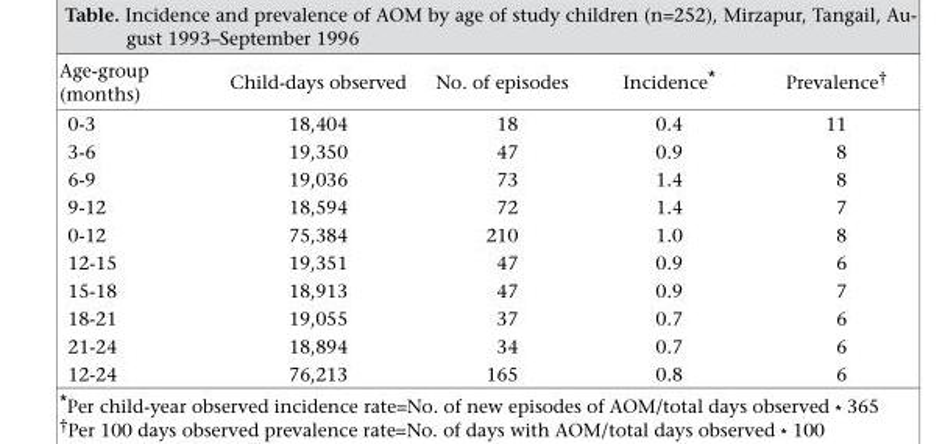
<table><thead><tr><td>Age-group (months)</td><td>Child-days observed</td><td>No. of episodes</td><td>Incidence*</td><td>Prevalence†</td></tr></thead><tbody><tr><td>0-3</td><td>18,404</td><td>18</td><td>0.4</td><td>11</td></tr><tr><td>3-6</td><td>19,350</td><td>47</td><td>0.9</td><td>8</td></tr><tr><td>6-9</td><td>19,036</td><td>73</td><td>1.4</td><td>8</td></tr><tr><td>9-12</td><td>18,594</td><td>72</td><td>1.4</td><td>7</td></tr><tr><td>0-12</td><td>75,384</td><td>210</td><td>1.0</td><td>8</td></tr><tr><td>12-15</td><td>19,351</td><td>47</td><td>0.9</td><td>6</td></tr><tr><td>15-18</td><td>18,913</td><td>47</td><td>0.9</td><td>7</td></tr><tr><td>18-21</td><td>19,055</td><td>37</td><td>0.7</td><td>6</td></tr><tr><td>21-24</td><td>18,894</td><td>34</td><td>0.7</td><td>6</td></tr><tr><td>12-24</td><td>76,213</td><td>165</td><td>0.8</td><td>6</td></tr></tbody></table>